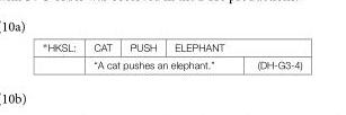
<table><tbody><tr><td rowspan="2">∗HKSL:</td><td>CAT</td><td>PUSH</td><td colspan="2">ELEPHANT</td></tr><tr><td colspan="3">“A cat pushes an elephant.”</td><td>(DH-G3-4)</td></tr></tbody></table>